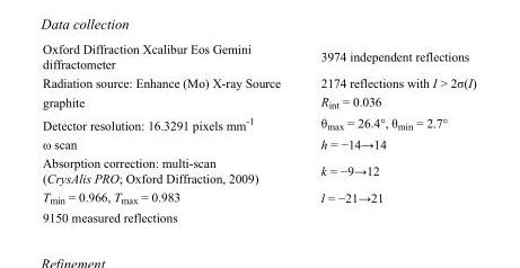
<table><tbody><tr><td>Oxford Diffraction Xcalibur Eos Gemini diffractometer</td><td>3974 independent reflections</td></tr><tr><td>Radiation source: Enhance (Mo) X-ray Source</td><td>2174 reflections with I &gt; 2σ(I)</td></tr><tr><td>graphite</td><td>R<sub>int</sub> = 0.036</td></tr><tr><td>Detector resolution: 16.3291 pixels mm<sup>-1</sup></td><td>θ<sub>max</sub> = 26.4°, θ<sub>min</sub> = 2.7°</td></tr><tr><td>ω scan</td><td>h = −14→14</td></tr><tr><td>Absorption correction: multi-scan (CrysAlis PRO; Oxford Diffraction, 2009)</td><td>k = −9→12</td></tr><tr><td>T<sub>min</sub> = 0.966, T<sub>max</sub> = 0.983</td><td>l = −21→21</td></tr><tr><td>9150 measured reflections</td><td></td></tr></tbody></table>